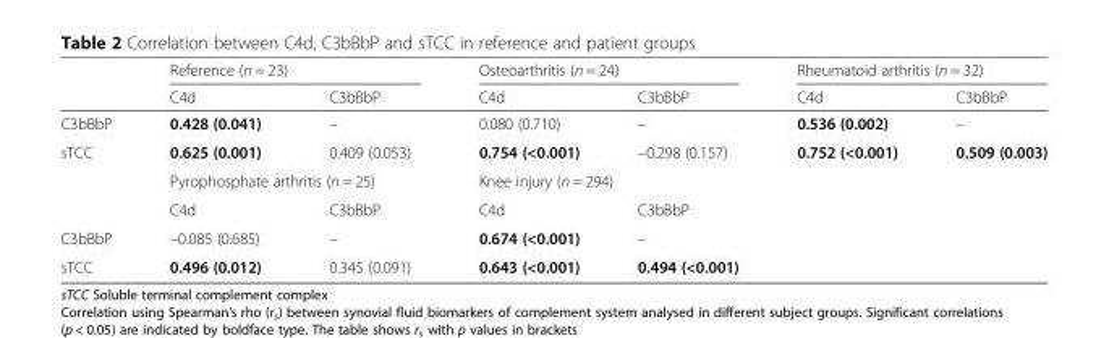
<table><thead><tr><td rowspan="2"></td><td colspan="2">Reference (n = 23)</td><td colspan="2">Osteoarthritis (n = 24)</td><td colspan="2">Rheumatoid arthritis (n = 32)</td></tr><tr><td>C4d</td><td>C3bBbP</td><td>C4d</td><td>C3bBbP</td><td>C4d</td><td>C3bBbP</td></tr></thead><tbody><tr><td>C3bBbP</td><td>0.428 (0.041)</td><td>–</td><td>0.080 (0.710)</td><td>–</td><td>0.536 (0.002)</td><td>–</td></tr><tr><td rowspan="3">sTCC</td><td>0.625 (0.001)</td><td>0.409 (0.053)</td><td>0.754 (&lt;0.001)</td><td>–0.298 (0.157)</td><td>0.752 (&lt;0.001)</td><td>0.509 (0.003)</td></tr><tr><td colspan="2">Pyrophosphate arthritis (n = 25)</td><td colspan="2">Knee injury (n = 294)</td><td></td><td></td></tr><tr><td>C4d</td><td>C3bBbP</td><td>C4d</td><td>C3bBbP</td><td></td><td></td></tr><tr><td>C3bBbP</td><td>–0.085 (0.685)</td><td>–</td><td>0.674 (&lt;0.001)</td><td>–</td><td></td><td></td></tr><tr><td>sTCC</td><td>0.496 (0.012)</td><td>0.345 (0.091)</td><td>0.643 (&lt;0.001)</td><td>0.494 (&lt;0.001)</td><td></td><td></td></tr></tbody></table>